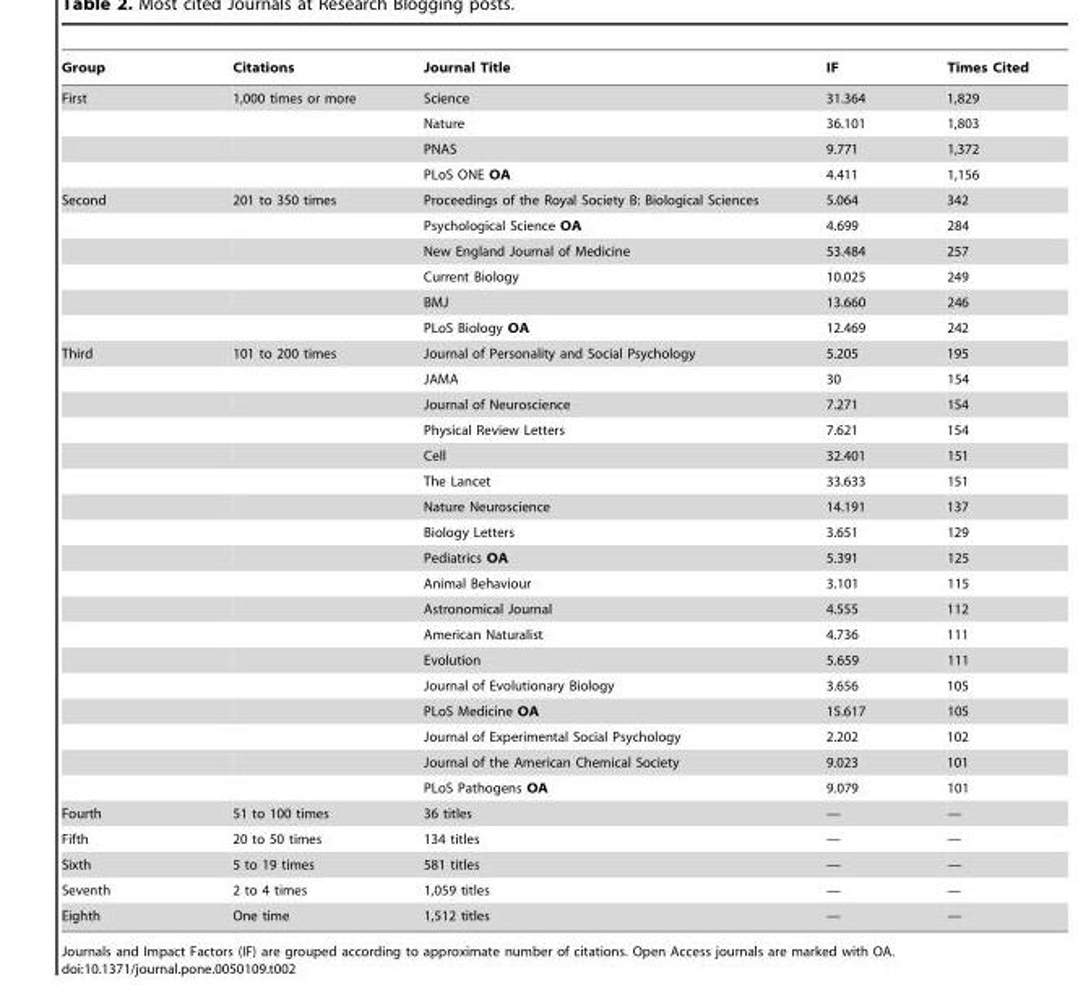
<table><thead><tr><td>Group</td><td>Citations</td><td>Journal Title</td><td>IF</td><td>Times Cited</td></tr></thead><tbody><tr><td rowspan="4">First</td><td>1,000 times or more</td><td>Science</td><td>31.364</td><td>1,829</td></tr><tr><td></td><td>Nature</td><td>36.101</td><td>1,803</td></tr><tr><td></td><td>PNAS</td><td>9.771</td><td>1,372</td></tr><tr><td></td><td>PLoS ONE OA</td><td>4.411</td><td>1,156</td></tr><tr><td rowspan="6">Second</td><td>201 to 350 times</td><td>Proceedings of the Royal Society B: Biological Sciences</td><td>5.064</td><td>342</td></tr><tr><td></td><td>Psychological Science OA</td><td>4.699</td><td>284</td></tr><tr><td></td><td>New England Journal of Medicine</td><td>53.484</td><td>257</td></tr><tr><td></td><td>Current Biology</td><td>10.025</td><td>249</td></tr><tr><td></td><td>BMJ</td><td>13.660</td><td>246</td></tr><tr><td></td><td>PLoS Biology OA</td><td>12.469</td><td>242</td></tr><tr><td rowspan="18">Third</td><td>101 to 200 times</td><td>Journal of Personality and Social Psychology</td><td>5.205</td><td>195</td></tr><tr><td></td><td>JAMA</td><td>30</td><td>154</td></tr><tr><td></td><td>Journal of Neuroscience</td><td>7.271</td><td>154</td></tr><tr><td></td><td>Physical Review Letters</td><td>7.621</td><td>154</td></tr><tr><td></td><td>Cell</td><td>32.401</td><td>151</td></tr><tr><td></td><td>The Lancet</td><td>33.633</td><td>151</td></tr><tr><td></td><td>Nature Neuroscience</td><td>14.191</td><td>137</td></tr><tr><td></td><td>Biology Letters</td><td>3.651</td><td>129</td></tr><tr><td></td><td>Pediatrics OA</td><td>5.391</td><td>125</td></tr><tr><td></td><td>Animal Behaviour</td><td>3.101</td><td>115</td></tr><tr><td></td><td>Astronomical Journal</td><td>4.555</td><td>112</td></tr><tr><td></td><td>American Naturalist</td><td>4.736</td><td>111</td></tr><tr><td></td><td>Evolution</td><td>5.659</td><td>111</td></tr><tr><td></td><td>Journal of Evolutionary Biology</td><td>3.656</td><td>105</td></tr><tr><td></td><td>PLoS Medicine OA</td><td>15.617</td><td>105</td></tr><tr><td></td><td>Journal of Experimental Social Psychology</td><td>2.202</td><td>102</td></tr><tr><td></td><td>Journal of the American Chemical Society</td><td>9.023</td><td>101</td></tr><tr><td></td><td>PLoS Pathogens OA</td><td>9.079</td><td>101</td></tr><tr><td>Fourth</td><td>51 to 100 times</td><td>36 titles</td><td>—</td><td>—</td></tr><tr><td>Fifth</td><td>20 to 50 times</td><td>134 titles</td><td>—</td><td>—</td></tr><tr><td>Sixth</td><td>5 to 19 times</td><td>581 titles</td><td>—</td><td>—</td></tr><tr><td>Seventh</td><td>2 to 4 times</td><td>1,059 titles</td><td>—</td><td>—</td></tr><tr><td>Eighth</td><td>One time</td><td>1,512 titles</td><td>—</td><td>—</td></tr></tbody></table>